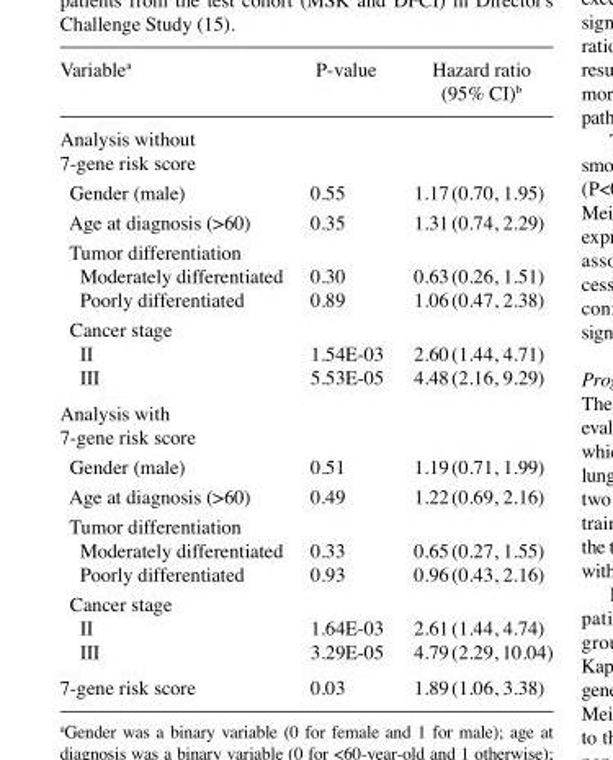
<table><thead><tr><td>Variable<sup>a</sup></td><td>P-value</td><td>Hazard ratio (95% CI)<sup>b</sup></td></tr></thead><tbody><tr><td colspan="3">Analysis without 7-gene risk score</td></tr><tr><td>Gender (male)</td><td>0.55</td><td>1.17 (0.70, 1.95)</td></tr><tr><td>Age at diagnosis (&gt;60)</td><td>0.35</td><td>1.31 (0.74, 2.29)</td></tr><tr><td colspan="3">Tumor differentiation</td></tr><tr><td>Moderately differentiated</td><td>0.30</td><td>0.63 (0.26, 1.51)</td></tr><tr><td>Poorly differentiated</td><td>0.89</td><td>1.06 (0.47, 2.38)</td></tr><tr><td colspan="3">Cancer stage</td></tr><tr><td>II</td><td>1.54E-03</td><td>2.60 (1.44, 4.71)</td></tr><tr><td>III</td><td>5.53E-05</td><td>4.48 (2.16, 9.29)</td></tr><tr><td colspan="3">Analysis with 7-gene risk score</td></tr><tr><td>Gender (male)</td><td>0.51</td><td>1.19 (0.71, 1.99)</td></tr><tr><td>Age at diagnosis (&gt;60)</td><td>0.49</td><td>1.22 (0.69, 2.16)</td></tr><tr><td colspan="3">Tumor differentiation</td></tr><tr><td>Moderately differentiated</td><td>0.33</td><td>0.65 (0.27, 1.55)</td></tr><tr><td>Poorly differentiated</td><td>0.93</td><td>0.96 (0.43, 2.16)</td></tr><tr><td colspan="3">Cancer stage</td></tr><tr><td>II</td><td>1.64E-03</td><td>2.61 (1.44, 4.74)</td></tr><tr><td>III</td><td>3.29E-05</td><td>4.79 (2.29, 10.04)</td></tr><tr><td>7-gene risk score</td><td>0.03</td><td>1.89 (1.06, 3.38)</td></tr></tbody></table>